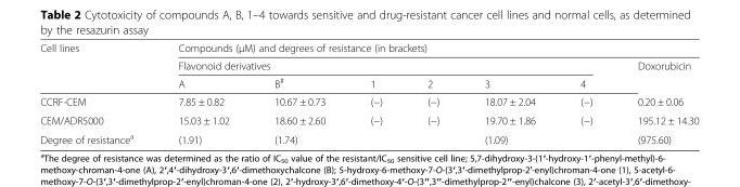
<table><thead><tr><td rowspan="3">Cell lines</td><td colspan="7">Compounds (μM) and degrees of resistance (in brackets)</td></tr><tr><td colspan="6">Flavonoid derivatives</td><td rowspan="2">Doxorubicin</td></tr><tr><td>A</td><td>B<sup>#</sup></td><td>1</td><td>2</td><td>3</td><td>4</td></tr></thead><tbody><tr><td>CCRF-CEM</td><td>7.85 ± 0.82</td><td>10.67 ± 0.73</td><td>(−)</td><td>(−)</td><td>18.07 ± 2.04</td><td>(−)</td><td>0.20 ± 0.06</td></tr><tr><td>CEM/ADR5000</td><td>15.03 ± 1.02</td><td>18.60 ± 2.60</td><td>(−)</td><td>(−)</td><td>19.70 ± 1.86</td><td>(−)</td><td>195.12 ± 14.30</td></tr><tr><td>Degree of resistance<sup>a</sup></td><td>(1.91)</td><td>(1.74)</td><td></td><td></td><td>(1.09)</td><td></td><td>(975.60)</td></tr></tbody></table>